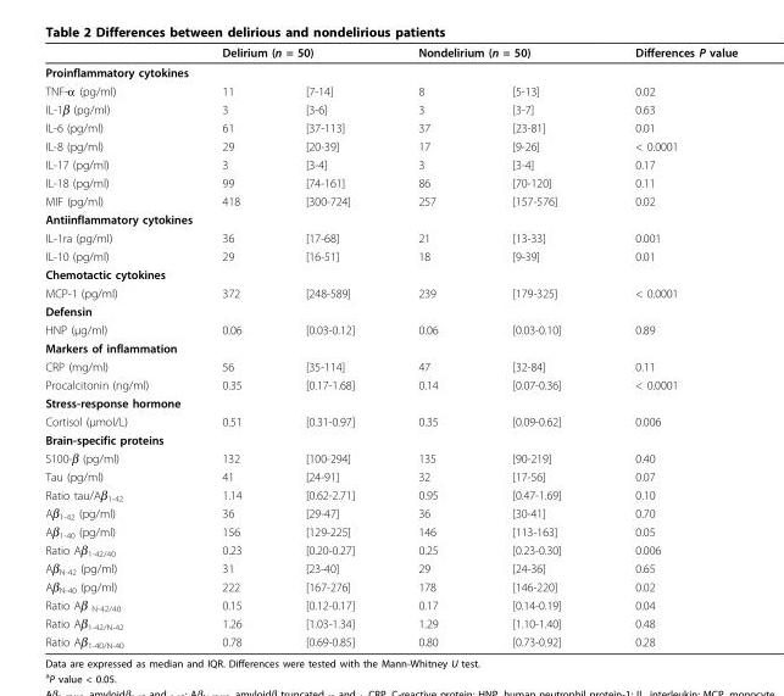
<table><thead><tr><td></td><td colspan="2">Delirium (n = 50)</td><td colspan="2">Nondelirium (n = 50)</td><td rowspan="3">Differences P value 0.02</td></tr><tr><td colspan="3">Proinflammatory cytokines</td><td rowspan="2">8</td><td rowspan="2">[5-13]</td></tr><tr><td>TNF-α (pg/ml)</td><td>11</td><td>[7-14]</td></tr></thead><tbody><tr><td>IL-1β (pg/ml)</td><td>3</td><td>[3-6]</td><td>3</td><td>[3-7]</td><td>0.63</td></tr><tr><td>IL-6 (pg/ml)</td><td>61</td><td>[37-113]</td><td>37</td><td>[23-81]</td><td>0.01</td></tr><tr><td>IL-8 (pg/ml)</td><td>29</td><td>[20-39]</td><td>17</td><td>[9-26]</td><td>&lt; 0.0001</td></tr><tr><td>IL-17 (pg/ml)</td><td>3</td><td>[3-4]</td><td>3</td><td>[3-4]</td><td>0.17</td></tr><tr><td>IL-18 (pg/ml)</td><td>99</td><td>[74-161]</td><td>86</td><td>[70-120]</td><td>0.11</td></tr><tr><td>MIF (pg/ml)</td><td>418</td><td>[300-724]</td><td>257</td><td>[157-576]</td><td>0.02</td></tr><tr><td colspan="6">Antiinflammatory cytokines</td></tr><tr><td>IL-1ra (pg/ml)</td><td>36</td><td>[17-68]</td><td>21</td><td>[13-33]</td><td>0.001</td></tr><tr><td>IL-10 (pg/ml)</td><td>29</td><td>[16-51]</td><td>18</td><td>[9-39]</td><td>0.01</td></tr><tr><td colspan="6">Chemotactic cytokines</td></tr><tr><td>MCP-1 (pg/ml)</td><td>372</td><td>[248-589]</td><td>239</td><td>[179-325]</td><td>&lt; 0.0001</td></tr><tr><td colspan="6">Defensin</td></tr><tr><td>HNP (μg/ml)</td><td>0.06</td><td>[0.03-0.12]</td><td>0.06</td><td>[0.03-0.10]</td><td>0.89</td></tr><tr><td colspan="6">Markers of inflammation</td></tr><tr><td>CRP (mg/ml)</td><td>56</td><td>[35-114]</td><td>47</td><td>[32-84]</td><td>0.11</td></tr><tr><td>Procalcitonin (ng/ml)</td><td>0.35</td><td>[0.17-1.68]</td><td>0.14</td><td>[0.07-0.36]</td><td>&lt; 0.0001</td></tr><tr><td colspan="6">Stress-response hormone</td></tr><tr><td>Cortisol (μmol/L)</td><td>0.51</td><td>[0.31-0.97]</td><td>0.35</td><td>[0.09-0.62]</td><td>0.006</td></tr><tr><td colspan="6">Brain-specific proteins</td></tr><tr><td>S100-β (pg/ml)</td><td>132</td><td>[100-294]</td><td>135</td><td>[90-219]</td><td>0.40</td></tr><tr><td>Tau (pg/ml)</td><td>41</td><td>[24-91]</td><td>32</td><td>[17-56]</td><td>0.07</td></tr><tr><td>Ratio tau/Aβ<sub>1-42</sub></td><td>1.14</td><td>[0.62-2.71]</td><td>0.95</td><td>[0.47-1.69]</td><td>0.10</td></tr><tr><td>Aβ<sub>1-42</sub> (pg/ml)</td><td>36</td><td>[29-47]</td><td>36</td><td>[30-41]</td><td>0.70</td></tr><tr><td>Aβ<sub>1-40</sub> (pg/ml)</td><td>156</td><td>[129-225]</td><td>146</td><td>[113-163]</td><td>0.05</td></tr><tr><td>Ratio Aβ<sub>1-42/40</sub></td><td>0.23</td><td>[0.20-0.27]</td><td>0.25</td><td>[0.23-0.30]</td><td>0.006</td></tr><tr><td>Aβ<sub>N-42</sub> (pg/ml)</td><td>31</td><td>[23-40]</td><td>29</td><td>[24-36]</td><td>0.65</td></tr><tr><td>Aβ<sub>N-40</sub> (pg/ml)</td><td>222</td><td>[167-276]</td><td>178</td><td>[146-220]</td><td>0.02</td></tr><tr><td>Ratio Aβ <sub>N-42/40</sub></td><td>0.15</td><td>[0.12-0.17]</td><td>0.17</td><td>[0.14-0.19]</td><td>0.04</td></tr><tr><td>Ratio Aβ<sub>1-42/N-42</sub></td><td>1.26</td><td>[1.03-1.34]</td><td>1.29</td><td>[1.10-1.40]</td><td>0.48</td></tr><tr><td>Ratio Aβ<sub>1-40/N-40</sub></td><td>0.78</td><td>[0.69-0.85]</td><td>0.80</td><td>[0.73-0.92]</td><td>0.28</td></tr></tbody></table>